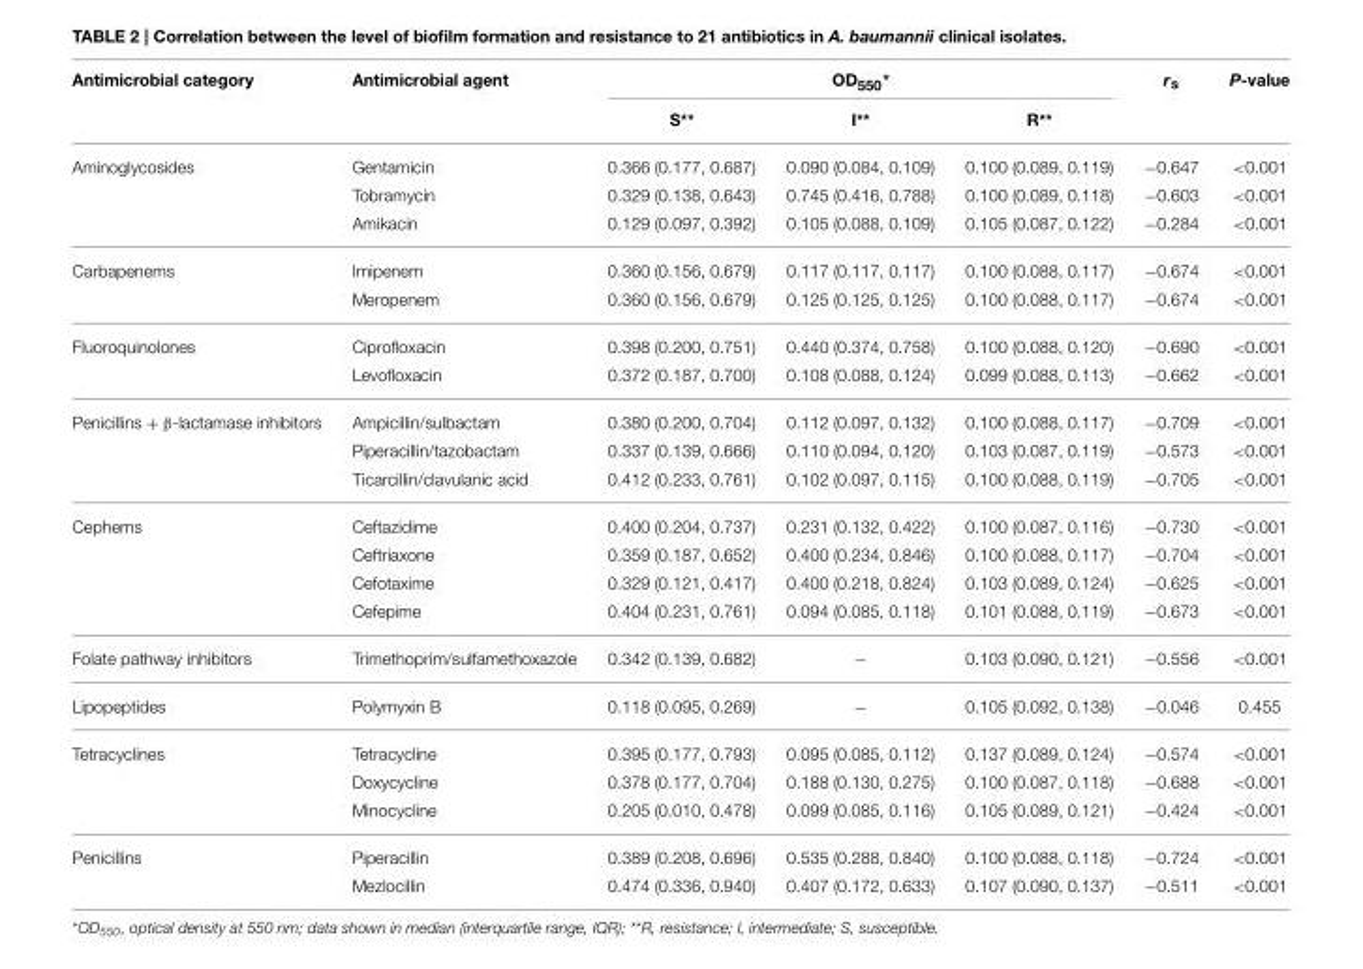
<table><thead><tr><td rowspan="2">Antimicrobial category</td><td rowspan="2">Antimicrobial agent</td><td colspan="3">OD<sub>550</sub>*</td><td rowspan="2">r<sub>s</sub></td><td rowspan="2">P-value</td></tr><tr><td>S**</td><td>I**</td><td>R**</td></tr></thead><tbody><tr><td rowspan="3">Aminoglycosides</td><td>Gentamicin</td><td>0.366 (0.177, 0.687)</td><td>0.090 (0.084, 0.109)</td><td>0.100 (0.089, 0.119)</td><td>−0.647</td><td>&lt;0.001</td></tr><tr><td>Tobramycin</td><td>0.329 (0.138, 0.643)</td><td>0.745 (0.416, 0.788)</td><td>0.100 (0.089, 0.118)</td><td>−0.603</td><td>&lt;0.001</td></tr><tr><td>Amikacin</td><td>0.129 (0.097, 0.392)</td><td>0.105 (0.088, 0.109)</td><td>0.105 (0.087, 0.122)</td><td>−0.284</td><td>&lt;0.001</td></tr><tr><td rowspan="2">Carbapenems</td><td>Imipenem</td><td>0.360 (0.156, 0.679)</td><td>0.117 (0.117, 0.117)</td><td>0.100 (0.088, 0.117)</td><td>−0.674</td><td>&lt;0.001</td></tr><tr><td>Meropenem</td><td>0.360 (0.156, 0.679)</td><td>0.125 (0.125, 0.125)</td><td>0.100 (0.088, 0.117)</td><td>−0.674</td><td>&lt;0.001</td></tr><tr><td rowspan="2">Fluoroquinolones</td><td>Ciprofloxacin</td><td>0.398 (0.200, 0.751)</td><td>0.440 (0.374, 0.758)</td><td>0.100 (0.088, 0.120)</td><td>−0.690</td><td>&lt;0.001</td></tr><tr><td>Levofloxacin</td><td>0.372 (0.187, 0.700)</td><td>0.108 (0.088, 0.124)</td><td>0.099 (0.088, 0.113)</td><td>−0.662</td><td>&lt;0.001</td></tr><tr><td rowspan="3">Penicillins + β-lactamase inhibitors</td><td>Ampicillin/sulbactam</td><td>0.380 (0.200, 0.704)</td><td>0.112 (0.097, 0.132)</td><td>0.100 (0.088, 0.117)</td><td>−0.709</td><td>&lt;0.001</td></tr><tr><td>Piperacillin/tazobactam</td><td>0.337 (0.139, 0.666)</td><td>0.110 (0.094, 0.120)</td><td>0.103 (0.087, 0.119)</td><td>−0.573</td><td>&lt;0.001</td></tr><tr><td>Ticarcillin/clavulanic acid</td><td>0.412 (0.233, 0.761)</td><td>0.102 (0.097, 0.115)</td><td>0.100 (0.088, 0.119)</td><td>−0.705</td><td>&lt;0.001</td></tr><tr><td rowspan="4">Cephems</td><td>Ceftazidime</td><td>0.400 (0.204, 0.737)</td><td>0.231 (0.132, 0.422)</td><td>0.100 (0.087, 0.116)</td><td>−0.730</td><td>&lt;0.001</td></tr><tr><td>Ceftriaxone</td><td>0.359 (0.187, 0.652)</td><td>0.400 (0.234, 0.846)</td><td>0.100 (0.088, 0.117)</td><td>−0.704</td><td>&lt;0.001</td></tr><tr><td>Cefotaxime</td><td>0.329 (0.121, 0.417)</td><td>0.400 (0.218, 0.824)</td><td>0.103 (0.089, 0.124)</td><td>−0.625</td><td>&lt;0.001</td></tr><tr><td>Cefepime</td><td>0.404 (0.231, 0.761)</td><td>0.094 (0.085, 0.118)</td><td>0.101 (0.088, 0.119)</td><td>−0.673</td><td>&lt;0.001</td></tr><tr><td>Folate pathway inhibitors</td><td>Trimethoprim/sulfamethoxazole</td><td>0.342 (0.139, 0.682)</td><td>−</td><td>0.103 (0.090, 0.121)</td><td>−0.556</td><td>&lt;0.001</td></tr><tr><td>Lipopeptides</td><td>Polymyxin B</td><td>0.118 (0.095, 0.269)</td><td>−</td><td>0.105 (0.092, 0.138)</td><td>−0.046</td><td>0.455</td></tr><tr><td rowspan="3">Tetracyclines</td><td>Tetracycline</td><td>0.395 (0.177, 0.793)</td><td>0.095 (0.085, 0.112)</td><td>0.137 (0.089, 0.124)</td><td>−0.574</td><td>&lt;0.001</td></tr><tr><td>Doxycycline</td><td>0.378 (0.177, 0.704)</td><td>0.188 (0.130, 0.275)</td><td>0.100 (0.087, 0.118)</td><td>−0.688</td><td>&lt;0.001</td></tr><tr><td>Minocycline</td><td>0.205 (0.010, 0.478)</td><td>0.099 (0.085, 0.116)</td><td>0.105 (0.089, 0.121)</td><td>−0.424</td><td>&lt;0.001</td></tr><tr><td rowspan="2">Penicillins</td><td>Piperacillin</td><td>0.389 (0.208, 0.696)</td><td>0.535 (0.288, 0.840)</td><td>0.100 (0.088, 0.118)</td><td>−0.724</td><td>&lt;0.001</td></tr><tr><td>Mezlocillin</td><td>0.474 (0.336, 0.940)</td><td>0.407 (0.172, 0.633)</td><td>0.107 (0.090, 0.137)</td><td>−0.511</td><td>&lt;0.001</td></tr></tbody></table>